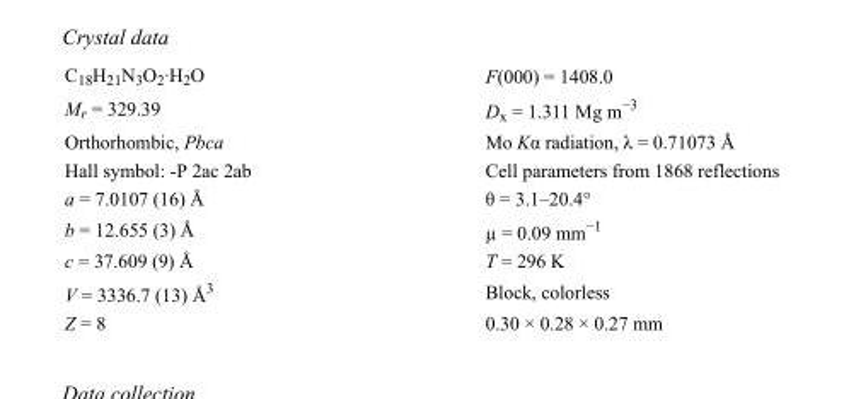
<table><tbody><tr><td>C<sub>18</sub>H<sub>21</sub>N<sub>3</sub>O<sub>2</sub>·H<sub>2</sub>O</td><td>F(000) = 1408.0</td></tr><tr><td>M<sub>r</sub> = 329.39</td><td>D<sub>x</sub> = 1.311 Mg m<sup>−3</sup></td></tr><tr><td>Orthorhombic, Pbca</td><td>Mo Kα radiation, λ = 0.71073 Å</td></tr><tr><td>Hall symbol: -P 2ac 2ab</td><td>Cell parameters from 1868 reflections</td></tr><tr><td>a = 7.0107 (16) Å</td><td>θ = 3.1–20.4°</td></tr><tr><td>b = 12.655 (3) Å</td><td>µ = 0.09 mm<sup>−1</sup></td></tr><tr><td>c = 37.609 (9) Å</td><td>T = 296 K</td></tr><tr><td>V = 3336.7 (13) Å<sup>3</sup></td><td>Block, colorless</td></tr><tr><td>Z = 8</td><td>0.30 × 0.28 × 0.27 mm</td></tr></tbody></table>